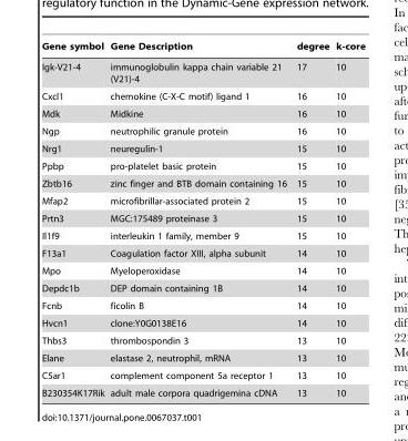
<table><thead><tr><td>Gene symbol</td><td>Gene Description</td><td>degree</td><td>k-core</td></tr></thead><tbody><tr><td>Igk-V21-4</td><td>immunoglobulin kappa chain variable 21 (V21)-4</td><td>17</td><td>10</td></tr><tr><td>Cxcl1</td><td>chemokine (C-X-C motif) ligand 1</td><td>16</td><td>10</td></tr><tr><td>Mdk</td><td>Midkine</td><td>16</td><td>10</td></tr><tr><td>Ngp</td><td>neutrophilic granule protein</td><td>16</td><td>10</td></tr><tr><td>Nrg1</td><td>neuregulin-1</td><td>15</td><td>10</td></tr><tr><td>Ppbp</td><td>pro-platelet basic protein</td><td>15</td><td>10</td></tr><tr><td>Zbtb16</td><td>zinc finger and BTB domain containing 16</td><td>15</td><td>10</td></tr><tr><td>Mfap2</td><td>microfibrillar-associated protein 2</td><td>15</td><td>10</td></tr><tr><td>Prtn3</td><td>MGC:175489 proteinase 3</td><td>15</td><td>10</td></tr><tr><td>Il1f9</td><td>interleukin 1 family, member 9</td><td>15</td><td>10</td></tr><tr><td>F13a1</td><td>Coagulation factor XIII, alpha subunit</td><td>14</td><td>10</td></tr><tr><td>Mpo</td><td>Myeloperoxidase</td><td>14</td><td>10</td></tr><tr><td>Depdc1b</td><td>DEP domain containing 1B</td><td>14</td><td>10</td></tr><tr><td>Fcnb</td><td>ficolin B</td><td>14</td><td>10</td></tr><tr><td>Hvcn1</td><td>clone:Y0G0138E16</td><td>14</td><td>10</td></tr><tr><td>Thbs3</td><td>thrombospondin 3</td><td>13</td><td>10</td></tr><tr><td>Elane</td><td>elastase 2, neutrophil, mRNA</td><td>13</td><td>10</td></tr><tr><td>C5ar1</td><td>complement component 5a receptor 1</td><td>13</td><td>10</td></tr><tr><td>B230354K17Rik</td><td>adult male corpora quadrigemina cDNA</td><td>13</td><td>10</td></tr></tbody></table>